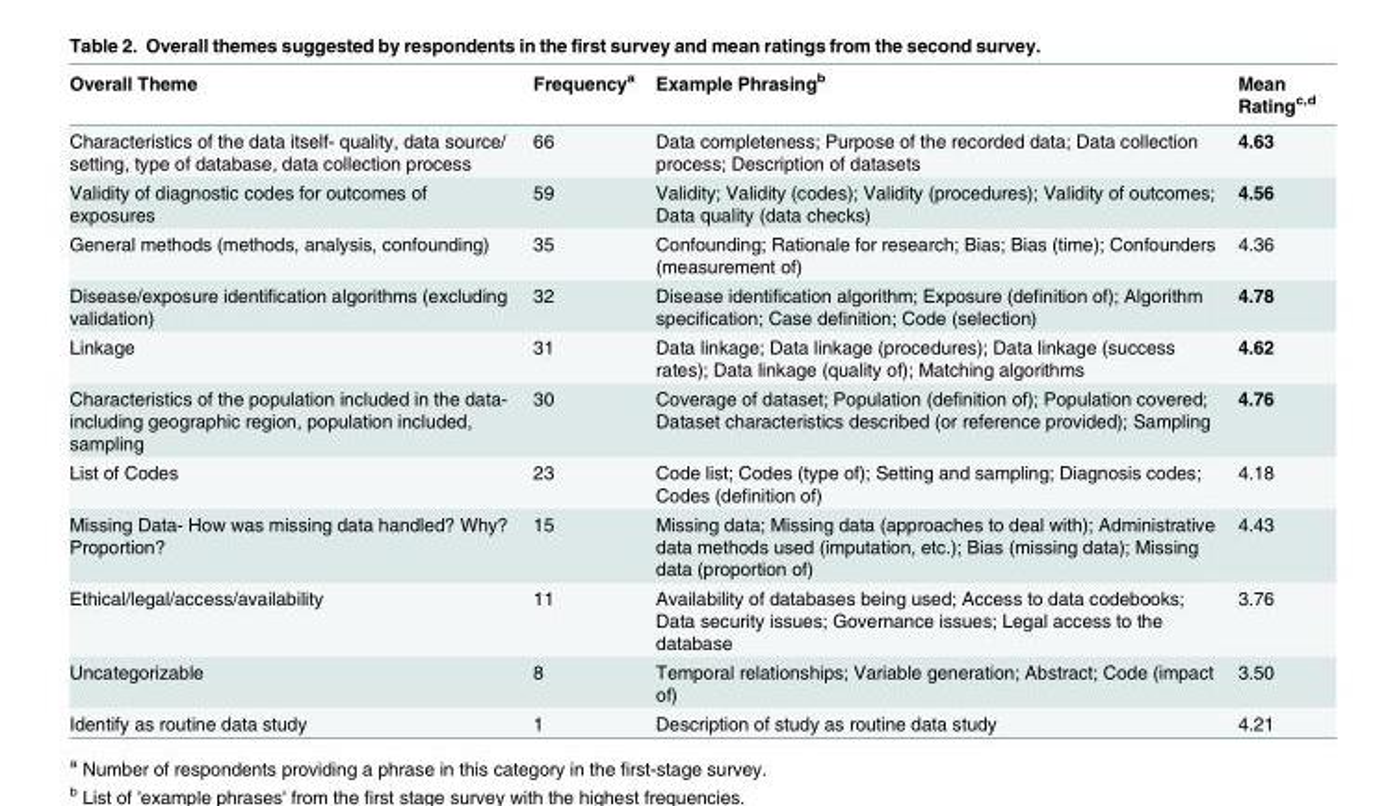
<table><thead><tr><td>Overall Theme</td><td>Frequency<sup>a</sup></td><td>Example Phrasing<sup>b</sup></td><td>Mean Rating<sup>c,d</sup></td></tr></thead><tbody><tr><td>Characteristics of the data itself- quality, data source/ setting, type of database, data collection process</td><td>66</td><td>Data completeness; Purpose of the recorded data; Data collection process; Description of datasets</td><td>4.63</td></tr><tr><td>Validity of diagnostic codes for outcomes of exposures</td><td>59</td><td>Validity; Validity (codes); Validity (procedures); Validity of outcomes; Data quality (data checks)</td><td>4.56</td></tr><tr><td>General methods (methods, analysis, confounding)</td><td>35</td><td>Confounding; Rationale for research; Bias; Bias (time); Confounders (measurement of)</td><td>4.36</td></tr><tr><td>Disease/exposure identification algorithms (excluding validation)</td><td>32</td><td>Disease identification algorithm; Exposure (definition of); Algorithm specification; Case definition; Code (selection)</td><td>4.78</td></tr><tr><td>Linkage</td><td>31</td><td>Data linkage; Data linkage (procedures); Data linkage (success rates); Data linkage (quality of); Matching algorithms</td><td>4.62</td></tr><tr><td>Characteristics of the population included in the data- including geographic region, population included, sampling</td><td>30</td><td>Coverage of dataset; Population (definition of); Population covered; Dataset characteristics described (or reference provided); Sampling</td><td>4.76</td></tr><tr><td>List of Codes</td><td>23</td><td>Code list; Codes (type of); Setting and sampling; Diagnosis codes; Codes (definition of)</td><td>4.18</td></tr><tr><td>Missing Data- How was missing data handled? Why? Proportion?</td><td>15</td><td>Missing data; Missing data (approaches to deal with); Administrative data methods used (imputation, etc.); Bias (missing data); Missing data (proportion of)</td><td>4.43</td></tr><tr><td>Ethical/legal/access/availability</td><td>11</td><td>Availability of databases being used; Access to data codebooks; Data security issues; Governance issues; Legal access to the database</td><td>3.76</td></tr><tr><td>Uncategorizable</td><td>8</td><td>Temporal relationships; Variable generation; Abstract; Code (impact of)</td><td>3.50</td></tr><tr><td>Identify as routine data study</td><td>1</td><td>Description of study as routine data study</td><td>4.21</td></tr></tbody></table>